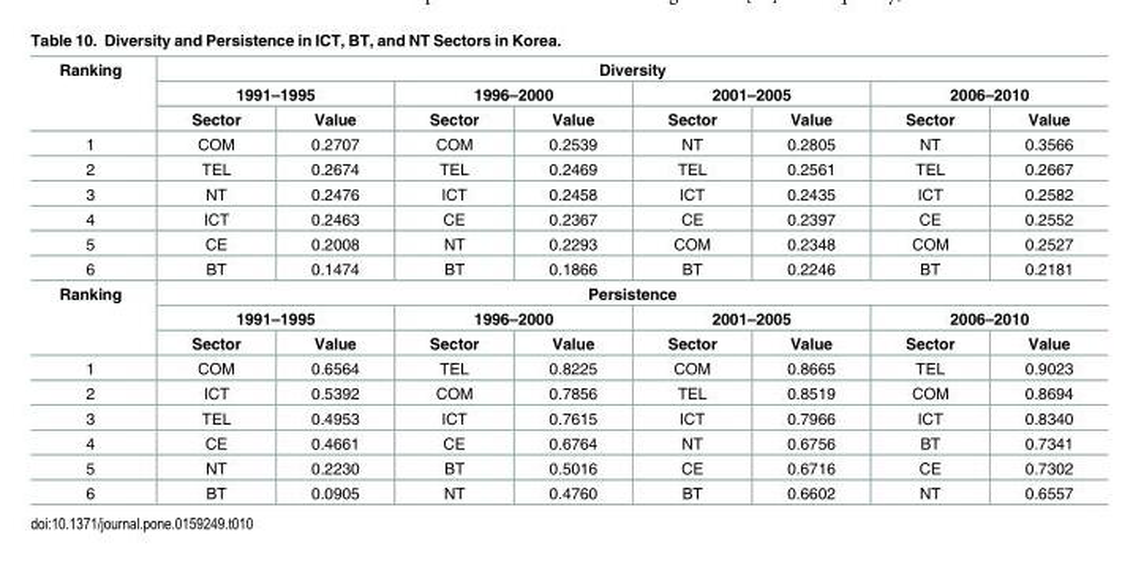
<table><tbody><tr><td rowspan="3">Ranking</td><td colspan="8">Diversity</td></tr><tr><td colspan="2">1991–1995</td><td colspan="2">1996–2000</td><td colspan="2">2001–2005</td><td colspan="2">2006–2010</td></tr><tr><td>Sector</td><td>Value</td><td>Sector</td><td>Value</td><td>Sector</td><td>Value</td><td>Sector</td><td>Value</td></tr><tr><td>1</td><td>COM</td><td>0.2707</td><td>COM</td><td>0.2539</td><td>NT</td><td>0.2805</td><td>NT</td><td>0.3566</td></tr><tr><td>2</td><td>TEL</td><td>0.2674</td><td>TEL</td><td>0.2469</td><td>TEL</td><td>0.2561</td><td>TEL</td><td>0.2667</td></tr><tr><td>3</td><td>NT</td><td>0.2476</td><td>ICT</td><td>0.2458</td><td>ICT</td><td>0.2435</td><td>ICT</td><td>0.2582</td></tr><tr><td>4</td><td>ICT</td><td>0.2463</td><td>CE</td><td>0.2367</td><td>CE</td><td>0.2397</td><td>CE</td><td>0.2552</td></tr><tr><td>5</td><td>CE</td><td>0.2008</td><td>NT</td><td>0.2293</td><td>COM</td><td>0.2348</td><td>COM</td><td>0.2527</td></tr><tr><td>6</td><td>BT</td><td>0.1474</td><td>BT</td><td>0.1866</td><td>BT</td><td>0.2246</td><td>BT</td><td>0.2181</td></tr><tr><td rowspan="3">Ranking</td><td colspan="8">Persistence</td></tr><tr><td colspan="2">1991–1995</td><td colspan="2">1996–2000</td><td colspan="2">2001–2005</td><td colspan="2">2006–2010</td></tr><tr><td>Sector</td><td>Value</td><td>Sector</td><td>Value</td><td>Sector</td><td>Value</td><td>Sector</td><td>Value</td></tr><tr><td>1</td><td>COM</td><td>0.6564</td><td>TEL</td><td>0.8225</td><td>COM</td><td>0.8665</td><td>TEL</td><td>0.9023</td></tr><tr><td>2</td><td>ICT</td><td>0.5392</td><td>COM</td><td>0.7856</td><td>TEL</td><td>0.8519</td><td>COM</td><td>0.8694</td></tr><tr><td>3</td><td>TEL</td><td>0.4953</td><td>ICT</td><td>0.7615</td><td>ICT</td><td>0.7966</td><td>ICT</td><td>0.8340</td></tr><tr><td>4</td><td>CE</td><td>0.4661</td><td>CE</td><td>0.6764</td><td>NT</td><td>0.6756</td><td>BT</td><td>0.7341</td></tr><tr><td>5</td><td>NT</td><td>0.2230</td><td>BT</td><td>0.5016</td><td>CE</td><td>0.6716</td><td>CE</td><td>0.7302</td></tr><tr><td>6</td><td>BT</td><td>0.0905</td><td>NT</td><td>0.4760</td><td>BT</td><td>0.6602</td><td>NT</td><td>0.6557</td></tr></tbody></table>